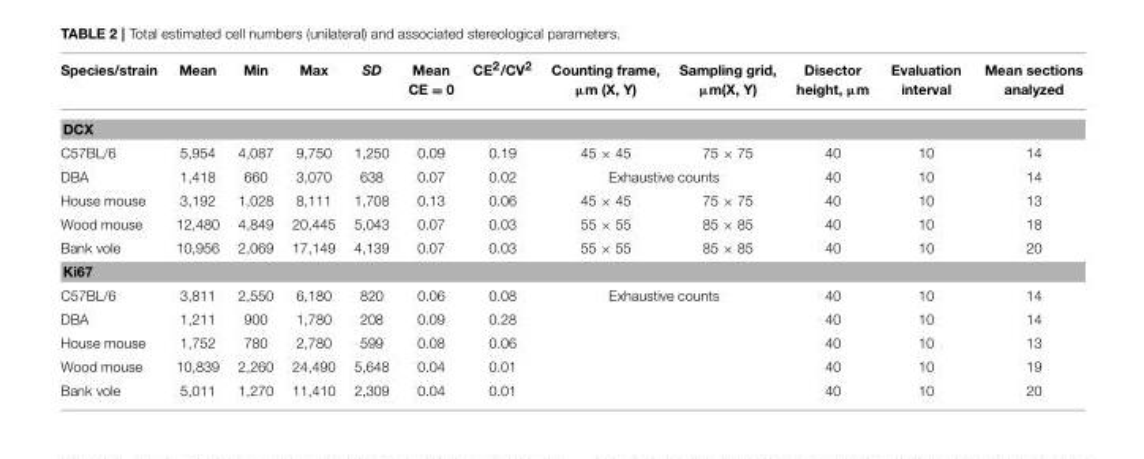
<table><thead><tr><td>Species/strain</td><td>Mean</td><td>Min</td><td>Max</td><td>SD</td><td>Mean CE = 0</td><td>CE<sup>2</sup>/CV<sup>2</sup></td><td>Counting frame, µm (X, Y)</td><td>Sampling grid, µm(X, Y)</td><td>Disector height, µm</td><td>Evaluation interval</td><td>Mean sections analyzed</td></tr></thead><tbody><tr><td colspan="12">DCX</td></tr><tr><td>C57BL/6</td><td>5,954</td><td>4,087</td><td>9,750</td><td>1,250</td><td>0.09</td><td>0.19</td><td>45 × 45</td><td>75 × 75</td><td>40</td><td>10</td><td>14</td></tr><tr><td>DBA</td><td>1,418</td><td>660</td><td>3,070</td><td>638</td><td>0.07</td><td>0.02</td><td colspan="2">Exhaustive counts</td><td>40</td><td>10</td><td>14</td></tr><tr><td>House mouse</td><td>3,192</td><td>1,028</td><td>8,111</td><td>1,708</td><td>0.13</td><td>0.06</td><td>45 × 45</td><td>75 × 75</td><td>40</td><td>10</td><td>13</td></tr><tr><td>Wood mouse</td><td>12,480</td><td>4,849</td><td>20,445</td><td>5,043</td><td>0.07</td><td>0.03</td><td>55 × 55</td><td>85 × 85</td><td>40</td><td>10</td><td>18</td></tr><tr><td>Bank vole</td><td>10,956</td><td>2,069</td><td>17,149</td><td>4,139</td><td>0.07</td><td>0.03</td><td>55 × 55</td><td>85 × 85</td><td>40</td><td>10</td><td>20</td></tr><tr><td colspan="12">Ki67</td></tr><tr><td>C57BL/6</td><td>3,811</td><td>2,550</td><td>6,180</td><td>820</td><td>0.06</td><td>0.08</td><td colspan="2">Exhaustive counts</td><td>40</td><td>10</td><td>14</td></tr><tr><td>DBA</td><td>1,211</td><td>900</td><td>1,780</td><td>208</td><td>0.09</td><td>0.28</td><td></td><td></td><td>40</td><td>10</td><td>14</td></tr><tr><td>House mouse</td><td>1,752</td><td>780</td><td>2,780</td><td>599</td><td>0.08</td><td>0.06</td><td></td><td></td><td>40</td><td>10</td><td>13</td></tr><tr><td>Wood mouse</td><td>10,839</td><td>2,260</td><td>24,490</td><td>5,648</td><td>0.04</td><td>0.01</td><td></td><td></td><td>40</td><td>10</td><td>19</td></tr><tr><td>Bank vole</td><td>5,011</td><td>1,270</td><td>11,410</td><td>2,309</td><td>0.04</td><td>0.01</td><td></td><td></td><td>40</td><td>10</td><td>20</td></tr></tbody></table>